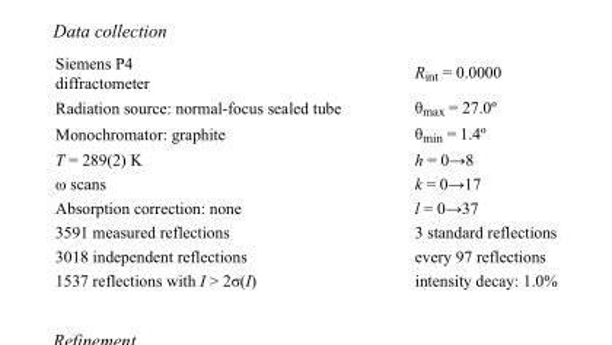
<table><tbody><tr><td>Siemens P4 diffractometer</td><td>R<sub>int</sub> = 0.0000</td></tr><tr><td>Radiation source: normal-focus sealed tube</td><td>θ<sub>max</sub> = 27.0º</td></tr><tr><td>Monochromator: graphite</td><td>θ<sub>min</sub> = 1.4º</td></tr><tr><td>T = 289(2) K</td><td>h = 0→8</td></tr><tr><td>ω scans</td><td>k = 0→17</td></tr><tr><td>Absorption correction: none</td><td>l = 0→37</td></tr><tr><td>3591 measured reflections</td><td>3 standard reflections</td></tr><tr><td>3018 independent reflections</td><td>every 97 reflections</td></tr><tr><td>1537 reflections with I &gt; 2σ(I)</td><td>intensity decay: 1.0%</td></tr></tbody></table>